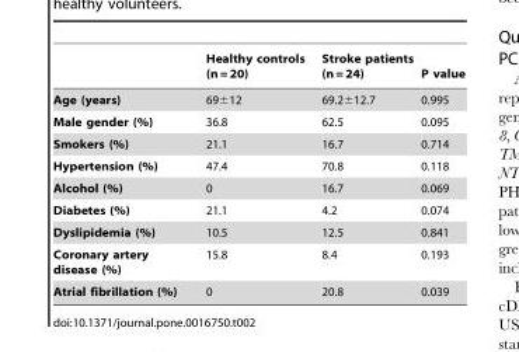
<table><thead><tr><td></td><td>Healthy controls (n = 20)</td><td>Stroke patients (n = 24)</td><td>P value</td></tr></thead><tbody><tr><td>Age (years)</td><td>69±12</td><td>69.2±12.7</td><td>0.995</td></tr><tr><td>Male gender (%)</td><td>36.8</td><td>62.5</td><td>0.095</td></tr><tr><td>Smokers (%)</td><td>21.1</td><td>16.7</td><td>0.714</td></tr><tr><td>Hypertension (%)</td><td>47.4</td><td>70.8</td><td>0.118</td></tr><tr><td>Alcohol (%)</td><td>0</td><td>16.7</td><td>0.069</td></tr><tr><td>Diabetes (%)</td><td>21.1</td><td>4.2</td><td>0.074</td></tr><tr><td>Dyslipidemia (%)</td><td>10.5</td><td>12.5</td><td>0.841</td></tr><tr><td>Coronary artery disease (%)</td><td>15.8</td><td>8.4</td><td>0.193</td></tr><tr><td>Atrial fibrillation (%)</td><td>0</td><td>20.8</td><td>0.039</td></tr></tbody></table>